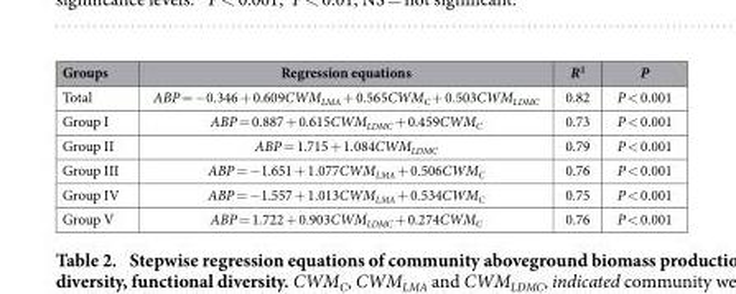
<table><thead><tr><td>Groups</td><td>Regression equations</td><td>R<sup>2</sup></td><td>P</td></tr></thead><tbody><tr><td>Total</td><td>ABP = − 0.346 + 0.609CWM<sub>LMA</sub> + 0.565CWM<sub>C</sub> + 0.503CWM<sub>LDMC</sub></td><td>0.82</td><td>P &lt; 0.001</td></tr><tr><td>Group I</td><td>ABP = 0.887 + 0.615CWM<sub>LDMC</sub> + 0.459CWM<sub>C</sub></td><td>0.73</td><td>P &lt; 0.001</td></tr><tr><td>Group II</td><td>ABP = 1.715 + 1.084CWM<sub>LDMC</sub></td><td>0.79</td><td>P &lt; 0.001</td></tr><tr><td>Group III</td><td>ABP = − 1.651 + 1.077CWM<sub>LMA</sub> + 0.506CWM<sub>C</sub></td><td>0.76</td><td>P &lt; 0.001</td></tr><tr><td>Group IV</td><td>ABP = − 1.557 + 1.013CWM<sub>LMA</sub> + 0.534CWM<sub>C</sub></td><td>0.75</td><td>P &lt; 0.001</td></tr><tr><td>Group V</td><td>ABP = 1.722 + 0.903CWM<sub>LDMC</sub> + 0.274CWM<sub>C</sub></td><td>0.76</td><td>P &lt; 0.001</td></tr></tbody></table>